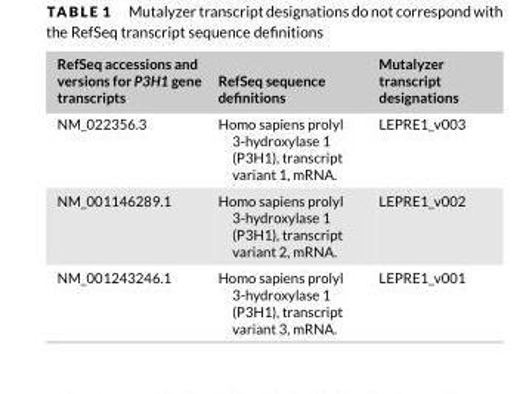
<table><thead><tr><td>RefSeq accessions and versions for P3H1 gene transcripts</td><td>RefSeq sequence definitions</td><td>Mutalyzer transcript designations</td></tr></thead><tbody><tr><td>NM_022356.3</td><td>Homo sapiens prolyl 3-hydroxylase 1 (P3H1), transcript variant 1, mRNA.</td><td>LEPRE1_v003</td></tr><tr><td>NM_001146289.1</td><td>Homo sapiens prolyl 3-hydroxylase 1 (P3H1), transcript variant 2, mRNA.</td><td>LEPRE1_v002</td></tr><tr><td>NM_001243246.1</td><td>Homo sapiens prolyl 3-hydroxylase 1 (P3H1), transcript variant 3, mRNA.</td><td>LEPRE1_v001</td></tr></tbody></table>